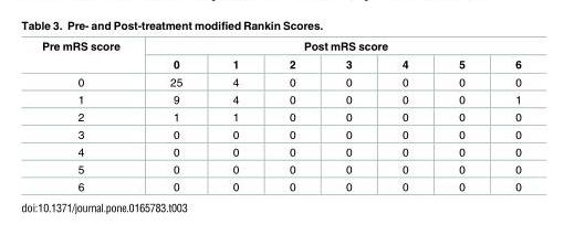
<table><thead><tr><td rowspan="2">Pre mRS score</td><td colspan="7">Post mRS score</td></tr><tr><td>0</td><td>1</td><td>2</td><td>3</td><td>4</td><td>5</td><td>6</td></tr></thead><tbody><tr><td>0</td><td>25</td><td>4</td><td>0</td><td>0</td><td>0</td><td>0</td><td>0</td></tr><tr><td>1</td><td>9</td><td>4</td><td>0</td><td>0</td><td>0</td><td>0</td><td>1</td></tr><tr><td>2</td><td>1</td><td>1</td><td>0</td><td>0</td><td>0</td><td>0</td><td>0</td></tr><tr><td>3</td><td>0</td><td>0</td><td>0</td><td>0</td><td>0</td><td>0</td><td>0</td></tr><tr><td>4</td><td>0</td><td>0</td><td>0</td><td>0</td><td>0</td><td>0</td><td>0</td></tr><tr><td>5</td><td>0</td><td>0</td><td>0</td><td>0</td><td>0</td><td>0</td><td>0</td></tr><tr><td>6</td><td>0</td><td>0</td><td>0</td><td>0</td><td>0</td><td>0</td><td>0</td></tr></tbody></table>